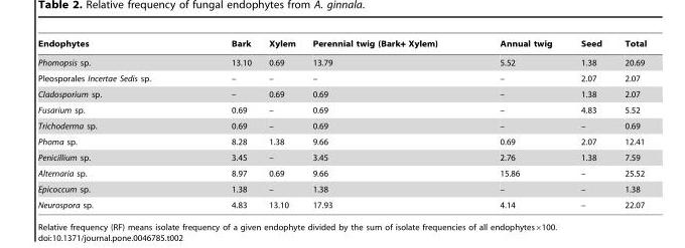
<table><thead><tr><td>Endophytes</td><td>Bark</td><td>Xylem</td><td>Perennial twig (Bark+ Xylem)</td><td>Annual twig</td><td>Seed</td><td>Total</td></tr></thead><tbody><tr><td>Phomopsis sp.</td><td>13.10</td><td>0.69</td><td>13.79</td><td>5.52</td><td>1.38</td><td>20.69</td></tr><tr><td>Pleosporales Incertae Sedis sp.</td><td>–</td><td>–</td><td>–</td><td>–</td><td>2.07</td><td>2.07</td></tr><tr><td>Cladosporium sp.</td><td>–</td><td>0.69</td><td>0.69</td><td>–</td><td>1.38</td><td>2.07</td></tr><tr><td>Fusarium sp.</td><td>0.69</td><td>–</td><td>0.69</td><td>–</td><td>4.83</td><td>5.52</td></tr><tr><td>Trichoderma sp.</td><td>0.69</td><td>–</td><td>0.69</td><td>–</td><td>–</td><td>0.69</td></tr><tr><td>Phoma sp.</td><td>8.28</td><td>1.38</td><td>9.66</td><td>0.69</td><td>2.07</td><td>12.41</td></tr><tr><td>Penicillium sp.</td><td>3.45</td><td>–</td><td>3.45</td><td>2.76</td><td>1.38</td><td>7.59</td></tr><tr><td>Alternaria sp.</td><td>8.97</td><td>0.69</td><td>9.66</td><td>15.86</td><td>–</td><td>25.52</td></tr><tr><td>Epicoccum sp.</td><td>1.38</td><td>–</td><td>1.38</td><td>–</td><td>–</td><td>1.38</td></tr><tr><td>Neurospora sp.</td><td>4.83</td><td>13.10</td><td>17.93</td><td>4.14</td><td>–</td><td>22.07</td></tr></tbody></table>